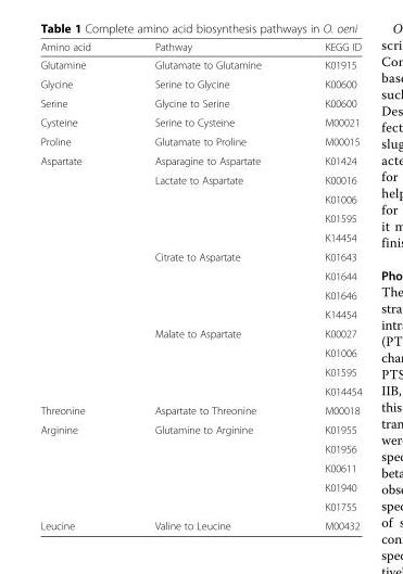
<table><thead><tr><td>Amino acid</td><td>Pathway</td><td>KEGG ID</td></tr></thead><tbody><tr><td>Glutamine</td><td>Glutamate to Glutamine</td><td>K01915</td></tr><tr><td>Glycine</td><td>Serine to Glycine</td><td>K00600</td></tr><tr><td>Serine</td><td>Glycine to Serine</td><td>K00600</td></tr><tr><td>Cysteine</td><td>Serine to Cysteine</td><td>M00021</td></tr><tr><td>Proline</td><td>Glutamate to Proline</td><td>M00015</td></tr><tr><td rowspan="13">Aspartate</td><td>Asparagine to Aspartate</td><td>K01424</td></tr><tr><td>Lactate to Aspartate</td><td>K00016</td></tr><tr><td></td><td>K01006</td></tr><tr><td></td><td>K01595</td></tr><tr><td></td><td>K14454</td></tr><tr><td>Citrate to Aspartate</td><td>K01643</td></tr><tr><td></td><td>K01644</td></tr><tr><td></td><td>K01646</td></tr><tr><td></td><td>K14454</td></tr><tr><td>Malate to Aspartate</td><td>K00027</td></tr><tr><td></td><td>K01006</td></tr><tr><td></td><td>K01595</td></tr><tr><td></td><td>K014454</td></tr><tr><td>Threonine</td><td>Aspartate to Threonine</td><td>M00018</td></tr><tr><td rowspan="5">Arginine</td><td>Glutamine to Arginine</td><td>K01955</td></tr><tr><td></td><td>K01956</td></tr><tr><td></td><td>K00611</td></tr><tr><td></td><td>K01940</td></tr><tr><td></td><td>K01755</td></tr><tr><td>Leucine</td><td>Valine to Leucine</td><td>M00432</td></tr></tbody></table>